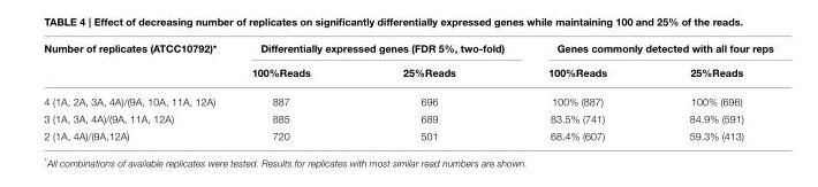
<table><thead><tr><td rowspan="2">Number of replicates (ATCC10792)*</td><td colspan="2">Differentially expressed genes (FDR 5%, two-fold)</td><td colspan="2">Genes commonly detected with all four reps</td></tr><tr><td>100%Reads</td><td>25%Reads</td><td>100%Reads</td><td>25%Reads</td></tr></thead><tbody><tr><td>4 (1A, 2A, 3A, 4A)/(9A, 10A, 11A, 12A)</td><td>887</td><td>696</td><td>100% (887)</td><td>100% (696)</td></tr><tr><td>3 (1A, 3A, 4A)/(9A, 11A, 12A)</td><td>885</td><td>689</td><td>83.5% (741)</td><td>84.9% (591)</td></tr><tr><td>2 (1A, 4A)/(9A,12A)</td><td>720</td><td>501</td><td>68.4% (607)</td><td>59.3% (413)</td></tr></tbody></table>